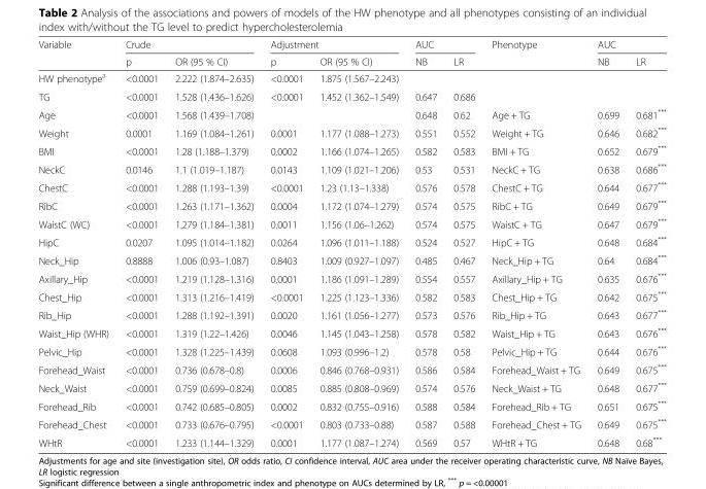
<table><thead><tr><td rowspan="2">Variable</td><td colspan="2">Crude</td><td colspan="2">Adjustment</td><td colspan="2">AUC</td><td rowspan="2">Phenotype</td><td colspan="2">AUC</td></tr><tr><td>p</td><td>OR (95 % CI)</td><td>p</td><td>OR (95 % CI)</td><td>NB</td><td>LR</td><td>NB</td><td>LR</td></tr></thead><tbody><tr><td>HW phenotype<sup>a</sup></td><td>&lt;0.0001</td><td>2.222 (1.874–2.635)</td><td>&lt;0.0001</td><td>1.875 (1.567–2.243)</td><td></td><td></td><td></td><td></td><td></td></tr><tr><td>TG</td><td>&lt;0.0001</td><td>1.528 (1.436–1.626)</td><td>&lt;0.0001</td><td>1.452 (1.362–1.549)</td><td>0.647</td><td>0.686</td><td></td><td></td><td></td></tr><tr><td>Age</td><td>&lt;0.0001</td><td>1.568 (1.439–1.708)</td><td></td><td></td><td>0.648</td><td>0.62</td><td>Age + TG</td><td>0.699</td><td>0.681***</td></tr><tr><td>Weight</td><td>0.0001</td><td>1.169 (1.084–1.261)</td><td>0.0001</td><td>1.177 (1.088–1.273)</td><td>0.551</td><td>0.552</td><td>Weight + TG</td><td>0.646</td><td>0.682***</td></tr><tr><td>BMI</td><td>&lt;0.0001</td><td>1.28 (1.188–1.379)</td><td>0.0002</td><td>1.166 (1.074–1.265)</td><td>0.582</td><td>0.583</td><td>BMI + TG</td><td>0.652</td><td>0.679***</td></tr><tr><td>NeckC</td><td>0.0146</td><td>1.1 (1.019–1.187)</td><td>0.0143</td><td>1.109 (1.021–1.206)</td><td>0.53</td><td>0.531</td><td>NeckC + TG</td><td>0.638</td><td>0.686***</td></tr><tr><td>ChestC</td><td>&lt;0.0001</td><td>1.288 (1.193–1.39)</td><td>&lt;0.0001</td><td>1.23 (1.13–1.338)</td><td>0.576</td><td>0.578</td><td>ChestC + TG</td><td>0.644</td><td>0.677***</td></tr><tr><td>RibC</td><td>&lt;0.0001</td><td>1.263 (1.171–1.362)</td><td>0.0004</td><td>1.172 (1.074–1.279)</td><td>0.574</td><td>0.575</td><td>RibC + TG</td><td>0.649</td><td>0.679***</td></tr><tr><td>WaistC (WC)</td><td>&lt;0.0001</td><td>1.279 (1.184–1.381)</td><td>0.0011</td><td>1.156 (1.06–1.262)</td><td>0.574</td><td>0.575</td><td>WaistC + TG</td><td>0.647</td><td>0.679***</td></tr><tr><td>HipC</td><td>0.0207</td><td>1.095 (1.014–1.182)</td><td>0.0264</td><td>1.096 (1.011–1.188)</td><td>0.524</td><td>0.527</td><td>HipC + TG</td><td>0.648</td><td>0.684***</td></tr><tr><td>Neck_Hip</td><td>0.8888</td><td>1.006 (0.93–1.087)</td><td>0.8403</td><td>1.009 (0.927–1.097)</td><td>0.485</td><td>0.467</td><td>Neck_Hip + TG</td><td>0.64</td><td>0.684***</td></tr><tr><td>Axillary_Hip</td><td>&lt;0.0001</td><td>1.219 (1.128–1.316)</td><td>0.0001</td><td>1.186 (1.091–1.289)</td><td>0.554</td><td>0.557</td><td>Axillary_Hip + TG</td><td>0.635</td><td>0.676***</td></tr><tr><td>Chest_Hip</td><td>&lt;0.0001</td><td>1.313 (1.216–1.419)</td><td>&lt;0.0001</td><td>1.225 (1.123–1.336)</td><td>0.582</td><td>0.583</td><td>Chest_Hip + TG</td><td>0.642</td><td>0.675***</td></tr><tr><td>Rib_Hip</td><td>&lt;0.0001</td><td>1.288 (1.192–1.391)</td><td>0.0020</td><td>1.161 (1.056–1.277)</td><td>0.573</td><td>0.576</td><td>Rib_Hip + TG</td><td>0.643</td><td>0.677***</td></tr><tr><td>Waist_Hip (WHR)</td><td>&lt;0.0001</td><td>1.319 (1.22–1.426)</td><td>0.0046</td><td>1.145 (1.043–1.258)</td><td>0.578</td><td>0.582</td><td>Waist_Hip + TG</td><td>0.643</td><td>0.676***</td></tr><tr><td>Pelvic_Hip</td><td>&lt;0.0001</td><td>1.328 (1.225–1.439)</td><td>0.0608</td><td>1.093 (0.996–1.2)</td><td>0.578</td><td>0.58</td><td>Pelvic_Hip + TG</td><td>0.644</td><td>0.676***</td></tr><tr><td>Forehead_Waist</td><td>&lt;0.0001</td><td>0.736 (0.678–0.8)</td><td>0.0006</td><td>0.846 (0.768–0.931)</td><td>0.586</td><td>0.584</td><td>Forehead_Waist + TG</td><td>0.649</td><td>0.675***</td></tr><tr><td>Neck_Waist</td><td>&lt;0.0001</td><td>0.759 (0.699–0.824)</td><td>0.0085</td><td>0.885 (0.808–0.969)</td><td>0.574</td><td>0.576</td><td>Neck_Waist + TG</td><td>0.648</td><td>0.677***</td></tr><tr><td>Forehead_Rib</td><td>&lt;0.0001</td><td>0.742 (0.685–0.805)</td><td>0.0002</td><td>0.832 (0.755–0.916)</td><td>0.588</td><td>0.584</td><td>Forehead_Rib + TG</td><td>0.651</td><td>0.675***</td></tr><tr><td>Forehead_Chest</td><td>&lt;0.0001</td><td>0.733 (0.676–0.795)</td><td>&lt;0.0001</td><td>0.803 (0.733–0.88)</td><td>0.587</td><td>0.588</td><td>Forehead_Chest + TG</td><td>0.649</td><td>0.675***</td></tr><tr><td>WHtR</td><td>&lt;0.0001</td><td>1.233 (1.144–1.329)</td><td>0.0001</td><td>1.177 (1.087–1.274)</td><td>0.569</td><td>0.57</td><td>WHtR + TG</td><td>0.648</td><td>0.68***</td></tr></tbody></table>